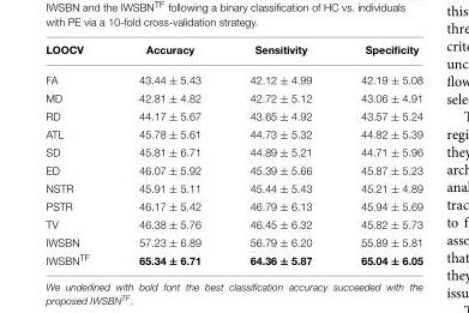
<table><thead><tr><td>LOOCV</td><td>Accuracy</td><td>Sensitivity</td><td>Specificity</td></tr></thead><tbody><tr><td>FA</td><td>43.44 ± 5.43</td><td>42.12 ± 4.99</td><td>42.19 ± 5.08</td></tr><tr><td>MD</td><td>42.81 ± 4.82</td><td>42.72 ± 5.12</td><td>43.06 ± 4.91</td></tr><tr><td>RD</td><td>44.17 ± 5.67</td><td>43.65 ± 4.92</td><td>43.57 ± 5.24</td></tr><tr><td>ATL</td><td>45.78 ± 5.61</td><td>44.73 ± 5.32</td><td>44.82 ± 5.39</td></tr><tr><td>SD</td><td>45.81 ± 6.71</td><td>44.89 ± 5.21</td><td>44.71 ± 5.96</td></tr><tr><td>ED</td><td>46.07 ± 5.92</td><td>45.39 ± 5.66</td><td>45.87 ± 5.23</td></tr><tr><td>NSTR</td><td>45.91 ± 5.11</td><td>45.44 ± 5.43</td><td>45.21 ± 4.89</td></tr><tr><td>PSTR</td><td>46.17 ± 5.42</td><td>46.79 ± 6.13</td><td>45.94 ± 5.69</td></tr><tr><td>TV</td><td>46.38 ± 5.76</td><td>46.45 ± 6.32</td><td>45.82 ± 5.73</td></tr><tr><td>IWSBN</td><td>57.23 ± 6.89</td><td>56.79 ± 6.20</td><td>55.89 ± 5.81</td></tr><tr><td>IWSBN<sup>TF</sup></td><td>65.34 ± 6.71</td><td>64.36 ± 5.87</td><td>65.04 ± 6.05</td></tr></tbody></table>